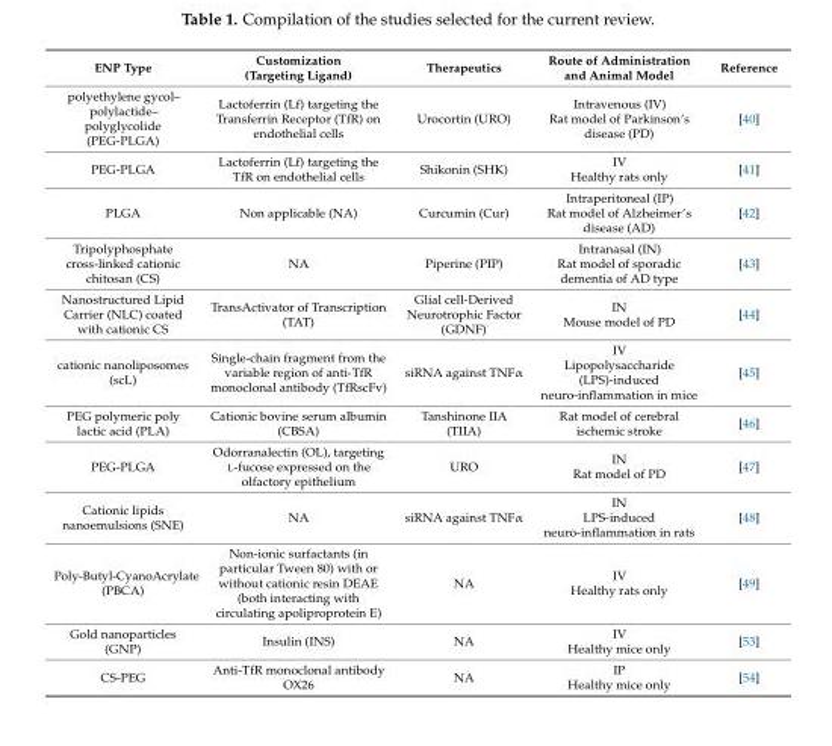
<table><thead><tr><td>ENP Type</td><td>Customization (Targeting Ligand)</td><td>Therapeutics</td><td>Route of Administration and Animal Model</td><td>Reference</td></tr></thead><tbody><tr><td>polyethylene gycol– polylactide– polyglycolide (PEG-PLGA)</td><td>Lactoferrin (Lf) targeting the Transferrin Receptor (TfR) on endothelial cells</td><td>Urocortin (URO)</td><td>Intravenous (IV) Rat model of Parkinson’s disease (PD)</td><td>[40]</td></tr><tr><td>PEG-PLGA</td><td>Lactoferrin (Lf) targeting the TfR on endothelial cells</td><td>Shikonin (SHK)</td><td>IV Healthy rats only</td><td>[41]</td></tr><tr><td>PLGA</td><td>Non applicable (NA)</td><td>Curcumin (Cur)</td><td>Intraperitoneal (IP) Rat model of Alzheimer’s disease (AD)</td><td>[42]</td></tr><tr><td>Tripolyphosphate cross-linked cationic chitosan (CS)</td><td>NA</td><td>Piperine (PIP)</td><td>Intranasal (IN) Rat model of sporadic dementia of AD type</td><td>[43]</td></tr><tr><td>Nanostructured Lipid Carrier (NLC) coated with cationic CS</td><td>TransActivator of Transcription (TAT)</td><td>Glial cell-Derived Neurotrophic Factor (GDNF)</td><td>IN Mouse model of PD</td><td>[44]</td></tr><tr><td>cationic nanoliposomes (scL)</td><td>Single-chain fragment from the variable region of anti-TfR monoclonal antibody (TfRscFv)</td><td>siRNA against TNFα</td><td>IV Lipopolysaccharide (LPS)-induced neuro-inflammation in mice</td><td>[45]</td></tr><tr><td>PEG polymeric poly lactic acid (PLA)</td><td>Cationic bovine serum albumin (CBSA)</td><td>Tanshinone IIA (TIIA)</td><td>Rat model of cerebral ischemic stroke</td><td>[46]</td></tr><tr><td>PEG-PLGA</td><td>Odorranalectin (OL), targeting L-fucose expressed on the olfactory epithelium</td><td>URO</td><td>IN Rat model of PD</td><td>[47]</td></tr><tr><td>Cationic lipids nanoemulsions (SNE)</td><td>NA</td><td>siRNA against TNFα</td><td>IN LPS-induced neuro-inflammation in rats</td><td>[48]</td></tr><tr><td>Poly-Butyl-CyanoAcrylate (PBCA)</td><td>Non-ionic surfactants (in particular Tween 80) with or without cationic resin DEAE (both interacting with circulating apoliproprotein E)</td><td>NA</td><td>IV Healthy rats only</td><td>[49]</td></tr><tr><td>Gold nanoparticles (GNP)</td><td>Insulin (INS)</td><td>NA</td><td>IV Healthy mice only</td><td>[53]</td></tr><tr><td>CS-PEG</td><td>Anti-TfR monoclonal antibody OX26</td><td>NA</td><td>IP Healthy mice only</td><td>[54]</td></tr></tbody></table>